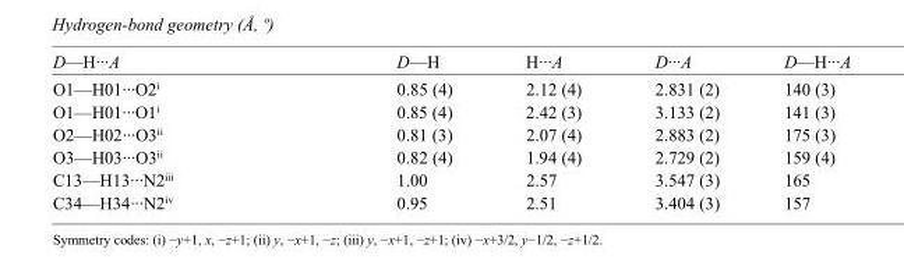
<table><tbody><tr><td>D—H···A</td><td>D—H</td><td>H···A</td><td>D···A</td><td>D—H···A</td></tr><tr><td>O1—H01···O2<sup>i</sup></td><td>0.85 (4)</td><td>2.12 (4)</td><td>2.831 (2)</td><td>140 (3)</td></tr><tr><td>O1—H01···O1<sup>i</sup></td><td>0.85 (4)</td><td>2.42 (3)</td><td>3.133 (2)</td><td>141 (3)</td></tr><tr><td>O2—H02···O3<sup>ii</sup></td><td>0.81 (3)</td><td>2.07 (4)</td><td>2.883 (2)</td><td>175 (3)</td></tr><tr><td>O3—H03···O3<sup>ii</sup></td><td>0.82 (4)</td><td>1.94 (4)</td><td>2.729 (2)</td><td>159 (4)</td></tr><tr><td>C13—H13···N2<sup>iii</sup></td><td>1.00</td><td>2.57</td><td>3.547 (3)</td><td>165</td></tr><tr><td>C34—H34···N2<sup>iv</sup></td><td>0.95</td><td>2.51</td><td>3.404 (3)</td><td>157</td></tr></tbody></table>